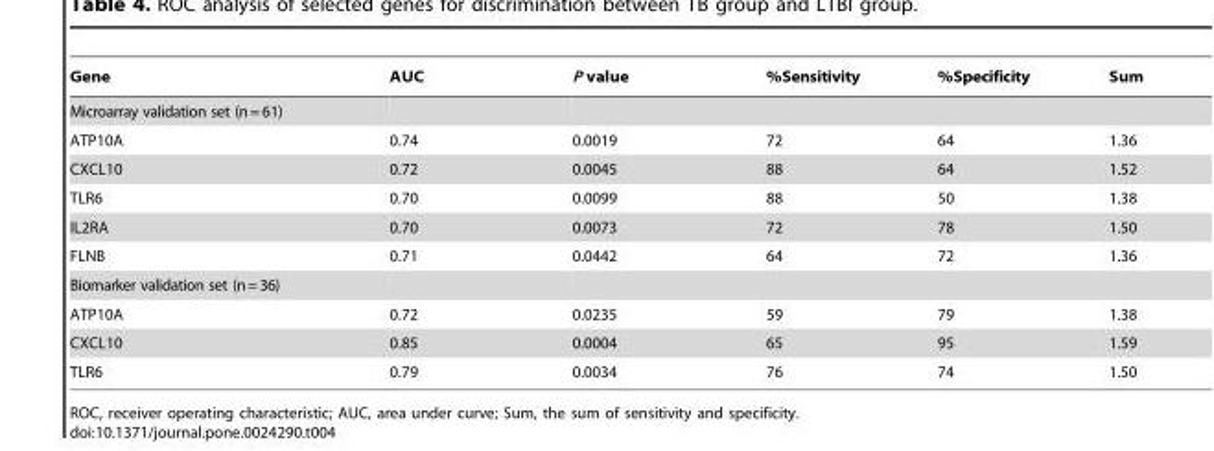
<table><thead><tr><td>Gene</td><td>AUC</td><td>P value</td><td>%Sensitivity</td><td>%Specificity</td><td>Sum</td></tr></thead><tbody><tr><td colspan="6">Microarray validation set (n=61)</td></tr><tr><td>ATP10A</td><td>0.74</td><td>0.0019</td><td>72</td><td>64</td><td>1.36</td></tr><tr><td>CXCL10</td><td>0.72</td><td>0.0045</td><td>88</td><td>64</td><td>1.52</td></tr><tr><td>TLR6</td><td>0.70</td><td>0.0099</td><td>88</td><td>50</td><td>1.38</td></tr><tr><td>IL2RA</td><td>0.70</td><td>0.0073</td><td>72</td><td>78</td><td>1.50</td></tr><tr><td>FLNB</td><td>0.71</td><td>0.0442</td><td>64</td><td>72</td><td>1.36</td></tr><tr><td colspan="6">Biomarker validation set (n=36)</td></tr><tr><td>ATP10A</td><td>0.72</td><td>0.0235</td><td>59</td><td>79</td><td>1.38</td></tr><tr><td>CXCL10</td><td>0.85</td><td>0.0004</td><td>65</td><td>95</td><td>1.59</td></tr><tr><td>TLR6</td><td>0.79</td><td>0.0034</td><td>76</td><td>74</td><td>1.50</td></tr></tbody></table>